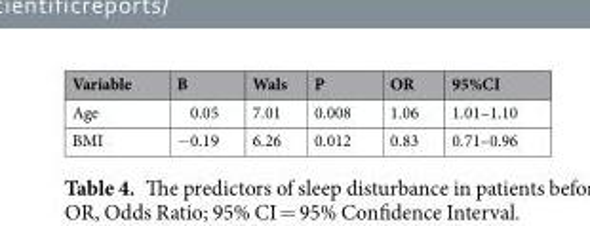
<table><thead><tr><td>Variable</td><td>B</td><td>Wals</td><td>P</td><td>OR</td><td>95%CI</td></tr></thead><tbody><tr><td>Age</td><td>0.05</td><td>7.01</td><td>0.008</td><td>1.06</td><td>1.01–1.10</td></tr><tr><td>BMI</td><td>−0.19</td><td>6.26</td><td>0.012</td><td>0.83</td><td>0.71–0.96</td></tr></tbody></table>